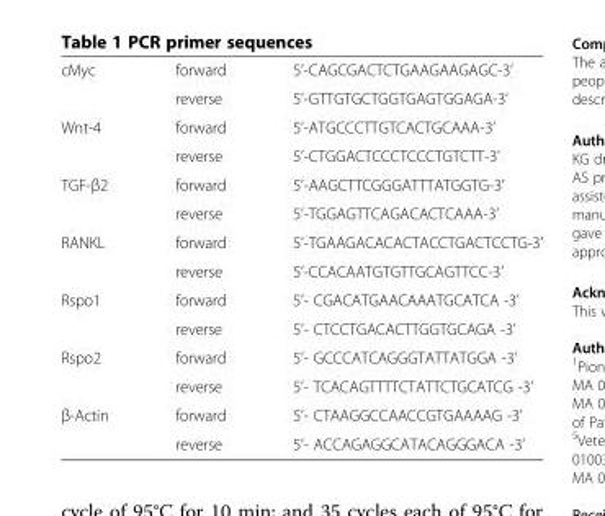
<table><tbody><tr><td rowspan="2">cMyc</td><td>forward</td><td>5’-CAGCGACTCTGAAGAAGAGC-3’</td></tr><tr><td>reverse</td><td>5’-GTTGTGCTGGTGAGTGGAGA-3’</td></tr><tr><td rowspan="2">Wnt-4</td><td>forward</td><td>5’-ATGCCCTTGTCACTGCAAA-3’</td></tr><tr><td>reverse</td><td>5’-CTGGACTCCCTCCCTGTCTT-3’</td></tr><tr><td rowspan="2">TGF-β2</td><td>forward</td><td>5’-AAGCTTCGGGATTTATGGTG-3’</td></tr><tr><td>reverse</td><td>5’-TGGAGTTCAGACACTCAAA-3’</td></tr><tr><td rowspan="2">RANKL</td><td>forward</td><td>5’-TGAAGACACACTACCTGACTCCTG-3’</td></tr><tr><td>reverse</td><td>5’-CCACAATGTGTTGCAGTTCC-3’</td></tr><tr><td rowspan="2">Rspo1</td><td>forward</td><td>5’- CGACATGAACAAATGCATCA -3’</td></tr><tr><td>reverse</td><td>5’- CTCCTGACACTTGGTGCAGA -3’</td></tr><tr><td rowspan="2">Rspo2</td><td>forward</td><td>5’- GCCCATCAGGGTATTATGGA -3’</td></tr><tr><td>reverse</td><td>5’- TCACAGTTTTCTATTCTGCATCG -3’</td></tr><tr><td rowspan="2">β-Actin</td><td>forward</td><td>5’- CTAAGGCCAACCGTGAAAAG -3’</td></tr><tr><td>reverse</td><td>5’- ACCAGAGGCATACAGGGACA -3’</td></tr></tbody></table>